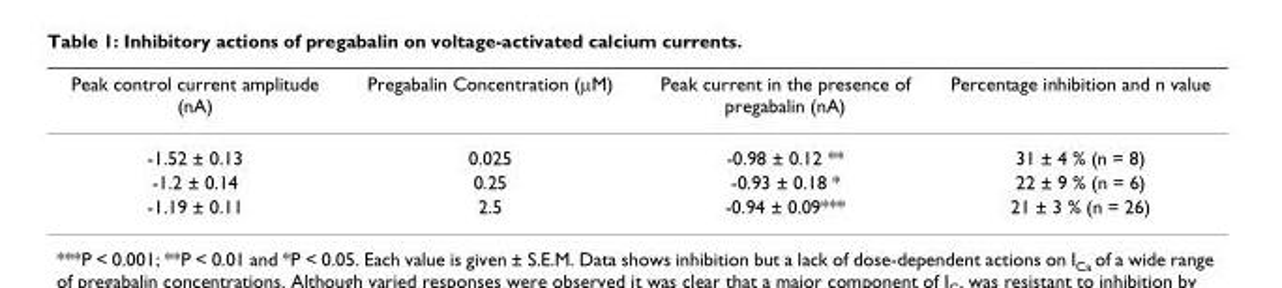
<table><thead><tr><td>Peak control current amplitude (nA)</td><td>Pregabalin Concentration (µM)</td><td>Peak current in the presence of pregabalin (nA)</td><td>Percentage inhibition and n value</td></tr></thead><tbody><tr><td>-1.52 ± 0.13</td><td>0.025</td><td>-0.98 ± 0.12 **</td><td>31 ± 4 % (n = 8)</td></tr><tr><td>-1.2 ± 0.14</td><td>0.25</td><td>-0.93 ± 0.18 *</td><td>22 ± 9 % (n = 6)</td></tr><tr><td>-1.19 ± 0.11</td><td>2.5</td><td>-0.94 ± 0.09***</td><td>21 ± 3 % (n = 26)</td></tr></tbody></table>